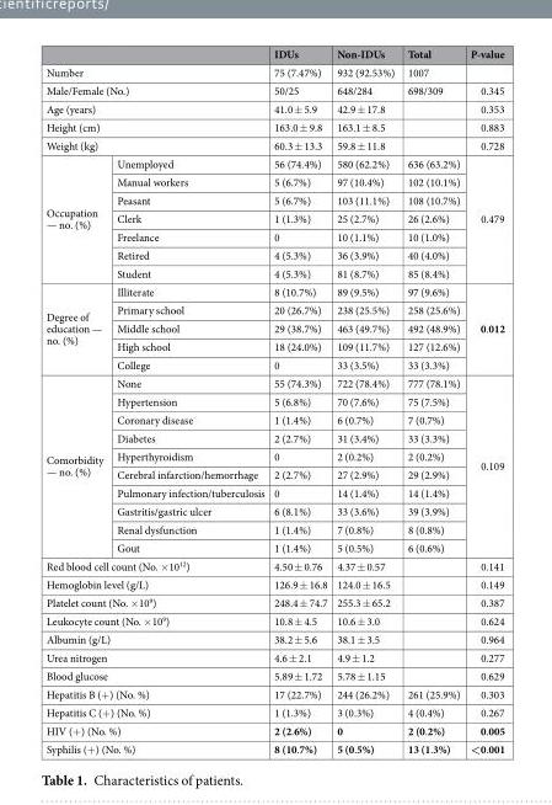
<table><thead><tr><td></td><td></td><td>IDUs</td><td>Non-IDUs</td><td>Total</td><td>P-value</td></tr></thead><tbody><tr><td colspan="2">Number</td><td>75 (7.47%)</td><td>932 (92.53%)</td><td>1007</td><td></td></tr><tr><td colspan="2">Male/Female (No.)</td><td>50/25</td><td>648/284</td><td>698/309</td><td>0.345</td></tr><tr><td colspan="2">Age (years)</td><td>41.0 ± 5.9</td><td>42.9 ± 17.8</td><td></td><td>0.353</td></tr><tr><td colspan="2">Height (cm)</td><td>163.0 ± 9.8</td><td>163.1 ± 8.5</td><td></td><td>0.883</td></tr><tr><td colspan="2">Weight (kg)</td><td>60.3 ± 13.3</td><td>59.8 ± 11.8</td><td></td><td>0.728</td></tr><tr><td rowspan="7">Occupation — no. (%)</td><td>Unemployed</td><td>56 (74.4%)</td><td>580 (62.2%)</td><td>636 (63.2%)</td><td rowspan="7">0.479</td></tr><tr><td>Manual workers</td><td>5 (6.7%)</td><td>97 (10.4%)</td><td>102 (10.1%)</td></tr><tr><td>Peasant</td><td>5 (6.7%)</td><td>103 (11.1%)</td><td>108 (10.7%)</td></tr><tr><td>Clerk</td><td>1 (1.3%)</td><td>25 (2.7%)</td><td>26 (2.6%)</td></tr><tr><td>Freelance</td><td>0</td><td>10 (1.1%)</td><td>10 (1.0%)</td></tr><tr><td>Retired</td><td>4 (5.3%)</td><td>36 (3.9%)</td><td>40 (4.0%)</td></tr><tr><td>Student</td><td>4 (5.3%)</td><td>81 (8.7%)</td><td>85 (8.4%)</td></tr><tr><td rowspan="5">Degree of education — no. (%)</td><td>Illiterate</td><td>8 (10.7%)</td><td>89 (9.5%)</td><td>97 (9.6%)</td><td rowspan="5">0.012</td></tr><tr><td>Primary school</td><td>20 (26.7%)</td><td>238 (25.5%)</td><td>258 (25.6%)</td></tr><tr><td>Middle school</td><td>29 (38.7%)</td><td>463 (49.7%)</td><td>492 (48.9%)</td></tr><tr><td>High school</td><td>18 (24.0%)</td><td>109 (11.7%)</td><td>127 (12.6%)</td></tr><tr><td>College</td><td>0</td><td>33 (3.5%)</td><td>33 (3.3%)</td></tr><tr><td rowspan="10">Comorbidity — no. (%)</td><td>None</td><td>55 (74.3%)</td><td>722 (78.4%)</td><td>777 (78.1%)</td><td rowspan="10">0.109</td></tr><tr><td>Hypertension</td><td>5 (6.8%)</td><td>70 (7.6%)</td><td>75 (7.5%)</td></tr><tr><td>Coronary disease</td><td>1 (1.4%)</td><td>6 (0.7%)</td><td>7 (0.7%)</td></tr><tr><td>Diabetes</td><td>2 (2.7%)</td><td>31 (3.4%)</td><td>33 (3.3%)</td></tr><tr><td>Hyperthyroidism</td><td>0</td><td>2 (0.2%)</td><td>2 (0.2%)</td></tr><tr><td>Cerebral infarction/hemorrhage</td><td>2 (2.7%)</td><td>27 (2.9%)</td><td>29 (2.9%)</td></tr><tr><td>Pulmonary infection/tuberculosis</td><td>0</td><td>14 (1.4%)</td><td>14 (1.4%)</td></tr><tr><td>Gastritis/gastric ulcer</td><td>6 (8.1%)</td><td>33 (3.6%)</td><td>39 (3.9%)</td></tr><tr><td>Renal dysfunction</td><td>1 (1.4%)</td><td>7 (0.8%)</td><td>8 (0.8%)</td></tr><tr><td>Gout</td><td>1 (1.4%)</td><td>5 (0.5%)</td><td>6 (0.6%)</td></tr><tr><td colspan="2">Red blood cell count (No. ×10<sup>12</sup>)</td><td>4.50 ± 0.76</td><td>4.37 ± 0.57</td><td></td><td>0.141</td></tr><tr><td colspan="2">Hemoglobin level (g/L)</td><td>126.9 ± 16.8</td><td>124.0 ± 16.5</td><td></td><td>0.149</td></tr><tr><td colspan="2">Platelet count (No. ×10<sup>9</sup>)</td><td>248.4 ± 74.7</td><td>255.3 ± 65.2</td><td></td><td>0.387</td></tr><tr><td colspan="2">Leukocyte count (No. ×10<sup>9</sup>)</td><td>10.8 ± 4.5</td><td>10.6 ± 3.0</td><td></td><td>0.624</td></tr><tr><td colspan="2">Albumin (g/L)</td><td>38.2 ± 5.6</td><td>38.1 ± 3.5</td><td></td><td>0.964</td></tr><tr><td colspan="2">Urea nitrogen</td><td>4.6 ± 2.1</td><td>4.9 ± 1.2</td><td></td><td>0.277</td></tr><tr><td colspan="2">Blood glucose</td><td>5.89 ± 1.72</td><td>5.78 ± 1.15</td><td></td><td>0.629</td></tr><tr><td colspan="2">Hepatitis B (+) (No. %)</td><td>17 (22.7%)</td><td>244 (26.2%)</td><td>261 (25.9%)</td><td>0.303</td></tr><tr><td colspan="2">Hepatitis C (+) (No. %)</td><td>1 (1.3%)</td><td>3 (0.3%)</td><td>4 (0.4%)</td><td>0.267</td></tr><tr><td colspan="2">HIV (+) (No. %)</td><td>2 (2.6%)</td><td>0</td><td>2 (0.2%)</td><td>0.005</td></tr><tr><td colspan="2">Syphilis (+) (No. %)</td><td>8 (10.7%)</td><td>5 (0.5%)</td><td>13 (1.3%)</td><td>&lt;0.001</td></tr></tbody></table>